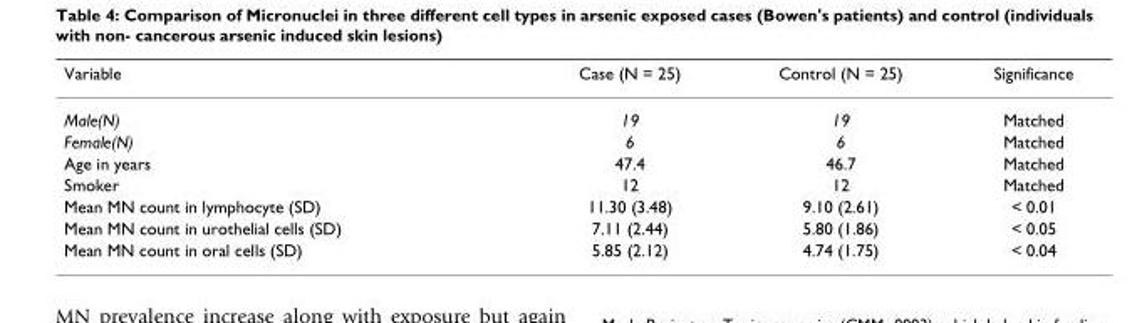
<table><thead><tr><td>Variable</td><td>Case (N = 25)</td><td>Control (N = 25)</td><td>Significance</td></tr></thead><tbody><tr><td>Male(N)</td><td>19</td><td>19</td><td>Matched</td></tr><tr><td>Female(N)</td><td>6</td><td>6</td><td>Matched</td></tr><tr><td>Age in years</td><td>47.4</td><td>46.7</td><td>Matched</td></tr><tr><td>Smoker</td><td>12</td><td>12</td><td>Matched</td></tr><tr><td>Mean MN count in lymphocyte (SD)</td><td>11.30 (3.48)</td><td>9.10 (2.61)</td><td>&lt; 0.01</td></tr><tr><td>Mean MN count in urothelial cells (SD)</td><td>7.11 (2.44)</td><td>5.80 (1.86)</td><td>&lt; 0.05</td></tr><tr><td>Mean MN count in oral cells (SD)</td><td>5.85 (2.12)</td><td>4.74 (1.75)</td><td>&lt; 0.04</td></tr></tbody></table>